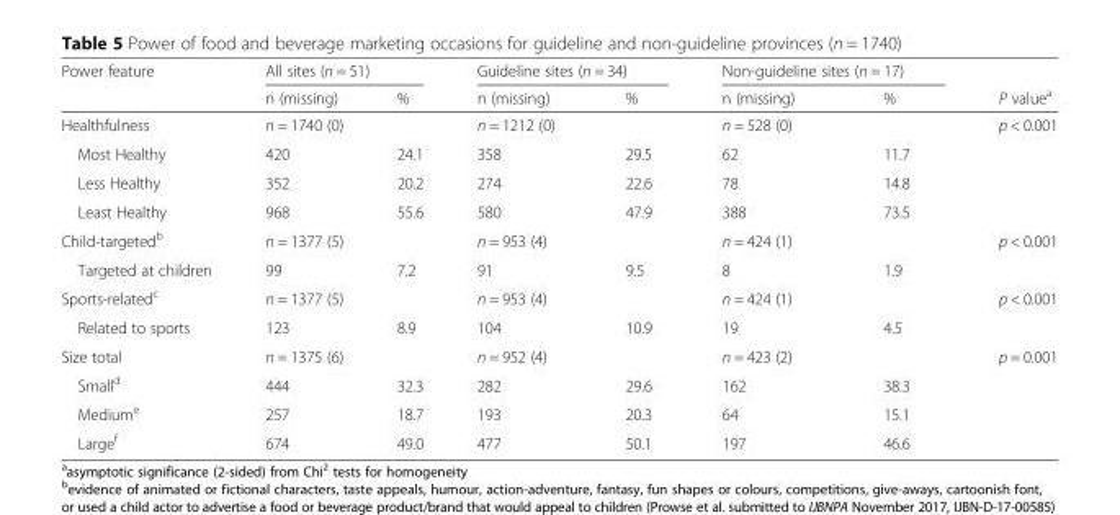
<table><thead><tr><td rowspan="2">Power feature</td><td colspan="2">All sites (n = 51)</td><td colspan="2">Guideline sites (n = 34)</td><td colspan="2">Non-guideline sites (n = 17)</td><td rowspan="2">P value<sup>a</sup></td></tr><tr><td>n (missing)</td><td>%</td><td>n (missing)</td><td>%</td><td>n (missing)</td><td>%</td></tr></thead><tbody><tr><td>Healthfulness</td><td>n = 1740 (0)</td><td></td><td>n = 1212 (0)</td><td></td><td>n = 528 (0)</td><td></td><td>p &lt; 0.001</td></tr><tr><td>Most Healthy</td><td>420</td><td>24.1</td><td>358</td><td>29.5</td><td>62</td><td>11.7</td><td></td></tr><tr><td>Less Healthy</td><td>352</td><td>20.2</td><td>274</td><td>22.6</td><td>78</td><td>14.8</td><td></td></tr><tr><td>Least Healthy</td><td>968</td><td>55.6</td><td>580</td><td>47.9</td><td>388</td><td>73.5</td><td></td></tr><tr><td>Child-targeted<sup>b</sup></td><td>n = 1377 (5)</td><td></td><td>n = 953 (4)</td><td></td><td>n = 424 (1)</td><td></td><td>p &lt; 0.001</td></tr><tr><td>Targeted at children</td><td>99</td><td>7.2</td><td>91</td><td>9.5</td><td>8</td><td>1.9</td><td></td></tr><tr><td>Sports-related<sup>c</sup></td><td>n = 1377 (5)</td><td></td><td>n = 953 (4)</td><td></td><td>n = 424 (1)</td><td></td><td>p &lt; 0.001</td></tr><tr><td>Related to sports</td><td>123</td><td>8.9</td><td>104</td><td>10.9</td><td>19</td><td>4.5</td><td></td></tr><tr><td>Size total</td><td>n = 1375 (6)</td><td></td><td>n = 952 (4)</td><td></td><td>n = 423 (2)</td><td></td><td>p = 0.001</td></tr><tr><td>Small<sup>d</sup></td><td>444</td><td>32.3</td><td>282</td><td>29.6</td><td>162</td><td>38.3</td><td></td></tr><tr><td>Medium<sup>e</sup></td><td>257</td><td>18.7</td><td>193</td><td>20.3</td><td>64</td><td>15.1</td><td></td></tr><tr><td>Large<sup>f</sup></td><td>674</td><td>49.0</td><td>477</td><td>50.1</td><td>197</td><td>46.6</td><td></td></tr></tbody></table>